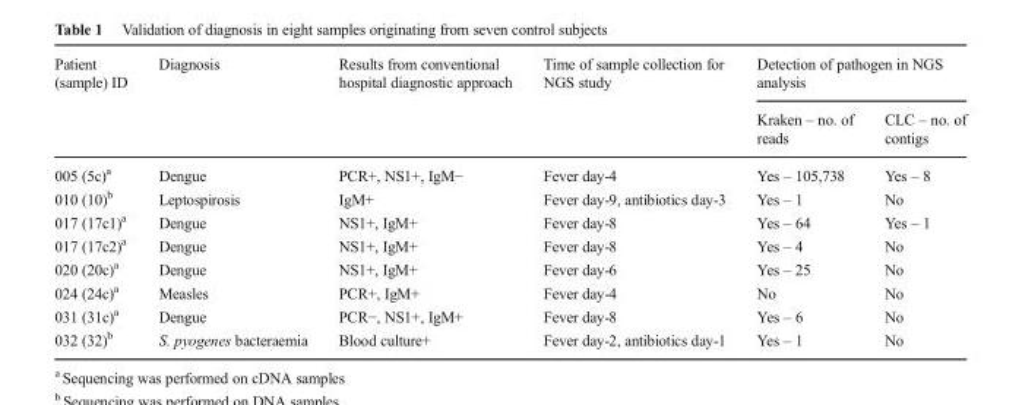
<table><thead><tr><td rowspan="2">Patient (sample) ID</td><td rowspan="2">Diagnosis</td><td rowspan="2">Results from conventional hospital diagnostic approach</td><td rowspan="2">Time of sample collection for NGS study</td><td colspan="2">Detection of pathogen in NGS analysis</td></tr><tr><td>Kraken – no. of reads</td><td>CLC – no. of contigs</td></tr></thead><tbody><tr><td>005 (5c)<sup>a</sup></td><td>Dengue</td><td>PCR+, NS1+, IgM−</td><td>Fever day-4</td><td>Yes – 105,738</td><td>Yes – 8</td></tr><tr><td>010 (10)<sup>b</sup></td><td>Leptospirosis</td><td>IgM+</td><td>Fever day-9, antibiotics day-3</td><td>Yes – 1</td><td>No</td></tr><tr><td>017 (17c1)<sup>a</sup></td><td>Dengue</td><td>NS1+, IgM+</td><td>Fever day-8</td><td>Yes – 64</td><td>Yes – 1</td></tr><tr><td>017 (17c2)<sup>a</sup></td><td>Dengue</td><td>NS1+, IgM+</td><td>Fever day-8</td><td>Yes – 4</td><td>No</td></tr><tr><td>020 (20c)<sup>a</sup></td><td>Dengue</td><td>NS1+, IgM+</td><td>Fever day-6</td><td>Yes – 25</td><td>No</td></tr><tr><td>024 (24c)<sup>a</sup></td><td>Measles</td><td>PCR+, IgM+</td><td>Fever day-4</td><td>No</td><td>No</td></tr><tr><td>031 (31c)<sup>a</sup></td><td>Dengue</td><td>PCR−, NS1+, IgM+</td><td>Fever day-8</td><td>Yes – 6</td><td>No</td></tr><tr><td>032 (32)<sup>b</sup></td><td>S. pyogenes bacteraemia</td><td>Blood culture+</td><td>Fever day-2, antibiotics day-1</td><td>Yes – 1</td><td>No</td></tr></tbody></table>